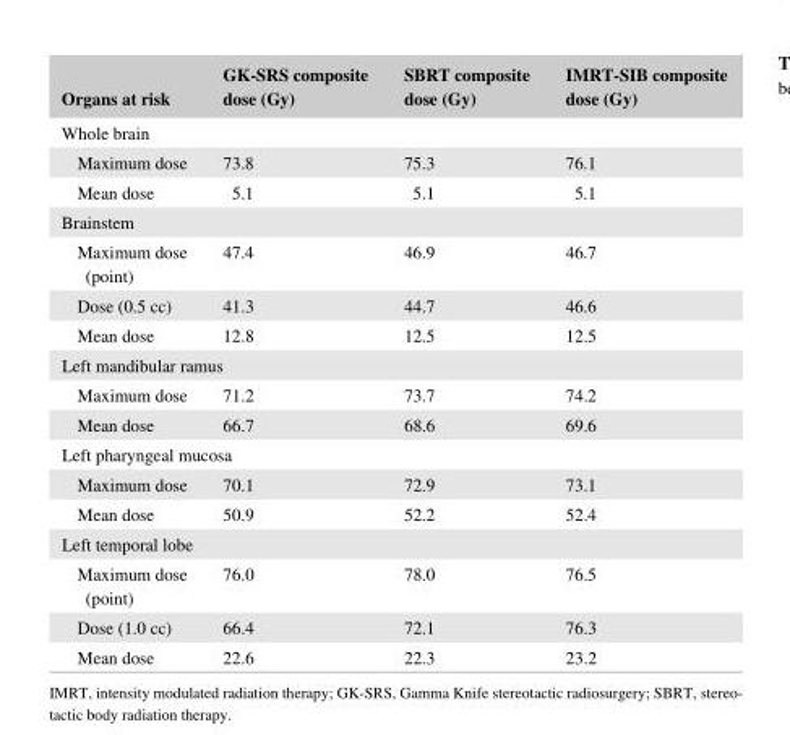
<table><thead><tr><td>Organs at risk</td><td>GK- SRS composite dose (Gy)</td><td>SBRT composite dose (Gy)</td><td>IMRT- SIB composite dose (Gy)</td></tr></thead><tbody><tr><td colspan="4">Whole brain</td></tr><tr><td>Maximum dose</td><td>73.8</td><td>75.3</td><td>76.1</td></tr><tr><td>Mean dose</td><td>5.1</td><td>5.1</td><td>5.1</td></tr><tr><td colspan="4">Brainstem</td></tr><tr><td>Maximum dose (point)</td><td>47.4</td><td>46.9</td><td>46.7</td></tr><tr><td>Dose (0.5 cc)</td><td>41.3</td><td>44.7</td><td>46.6</td></tr><tr><td>Mean dose</td><td>12.8</td><td>12.5</td><td>12.5</td></tr><tr><td colspan="4">Left mandibular ramus</td></tr><tr><td>Maximum dose</td><td>71.2</td><td>73.7</td><td>74.2</td></tr><tr><td>Mean dose</td><td>66.7</td><td>68.6</td><td>69.6</td></tr><tr><td colspan="4">Left pharyngeal mucosa</td></tr><tr><td>Maximum dose</td><td>70.1</td><td>72.9</td><td>73.1</td></tr><tr><td>Mean dose</td><td>50.9</td><td>52.2</td><td>52.4</td></tr><tr><td colspan="4">Left temporal lobe</td></tr><tr><td>Maximum dose (point)</td><td>76.0</td><td>78.0</td><td>76.5</td></tr><tr><td>Dose (1.0 cc)</td><td>66.4</td><td>72.1</td><td>76.3</td></tr><tr><td>Mean dose</td><td>22.6</td><td>22.3</td><td>23.2</td></tr></tbody></table>